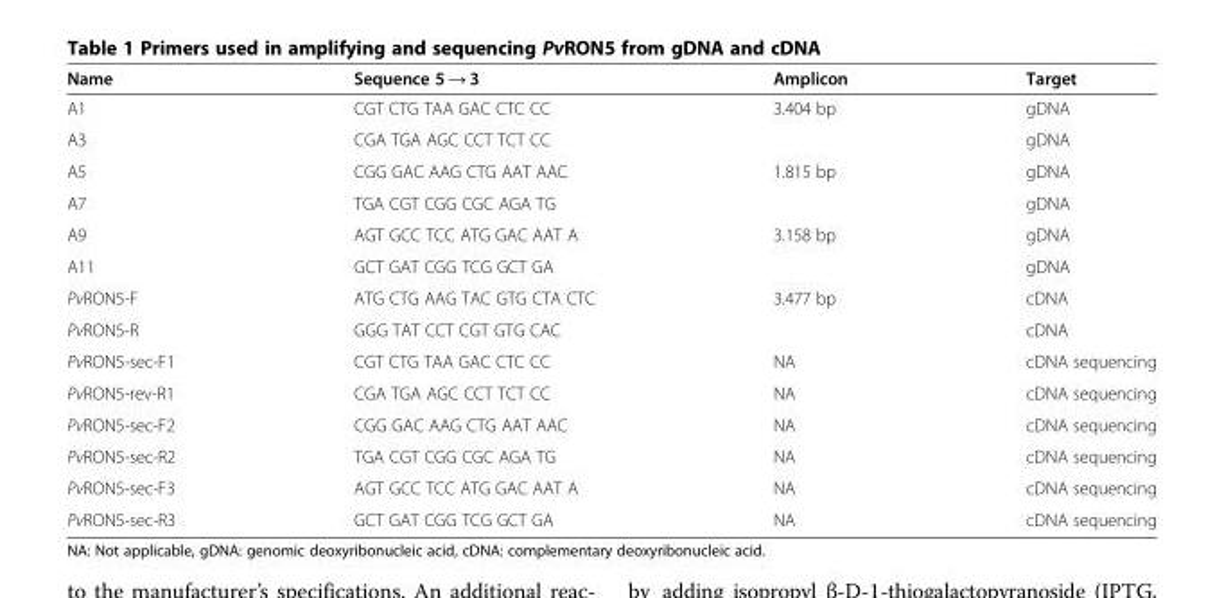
<table><thead><tr><td>Name</td><td>Sequence 5 → 3</td><td>Amplicon</td><td>Target</td></tr></thead><tbody><tr><td>A1</td><td>CGT CTG TAA GAC CTC CC</td><td rowspan="2">3.404 bp</td><td>gDNA</td></tr><tr><td>A3</td><td>CGA TGA AGC CCT TCT CC</td><td>gDNA</td></tr><tr><td>A5</td><td>CGG GAC AAG CTG AAT AAC</td><td rowspan="2">1.815 bp</td><td>gDNA</td></tr><tr><td>A7</td><td>TGA CGT CGG CGC AGA TG</td><td>gDNA</td></tr><tr><td>A9</td><td>AGT GCC TCC ATG GAC AAT A</td><td rowspan="2">3.158 bp</td><td>gDNA</td></tr><tr><td>A11</td><td>GCT GAT CGG TCG GCT GA</td><td>gDNA</td></tr><tr><td>PvRON5-F</td><td>ATG CTG AAG TAC GTG CTA CTC</td><td rowspan="2">3.477 bp</td><td>cDNA</td></tr><tr><td>PvRON5-R</td><td>GGG TAT CCT CGT GTG CAC</td><td>cDNA</td></tr><tr><td>PvRON5-sec-F1</td><td>CGT CTG TAA GAC CTC CC</td><td>NA</td><td>cDNA sequencing</td></tr><tr><td>PvRON5-rev-R1</td><td>CGA TGA AGC CCT TCT CC</td><td>NA</td><td>cDNA sequencing</td></tr><tr><td>PvRON5-sec-F2</td><td>CGG GAC AAG CTG AAT AAC</td><td>NA</td><td>cDNA sequencing</td></tr><tr><td>PvRON5-sec-R2</td><td>TGA CGT CGG CGC AGA TG</td><td>NA</td><td>cDNA sequencing</td></tr><tr><td>PvRON5-sec-F3</td><td>AGT GCC TCC ATG GAC AAT A</td><td>NA</td><td>cDNA sequencing</td></tr><tr><td>PvRON5-sec-R3</td><td>GCT GAT CGG TCG GCT GA</td><td>NA</td><td>cDNA sequencing</td></tr></tbody></table>